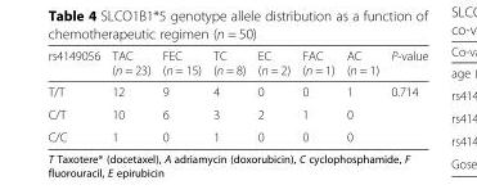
<table><thead><tr><td>rs4149056</td><td>TAC (n = 23)</td><td>FEC (n = 15)</td><td>TC (n = 8)</td><td>EC (n = 2)</td><td>FAC (n = 1)</td><td>AC (n = 1)</td><td>P-value</td></tr></thead><tbody><tr><td>T/T</td><td>12</td><td>9</td><td>4</td><td>0</td><td>0</td><td>1</td><td rowspan="3">0.714</td></tr><tr><td>C/T</td><td>10</td><td>6</td><td>3</td><td>2</td><td>1</td><td>0</td></tr><tr><td>C/C</td><td>1</td><td>0</td><td>1</td><td>0</td><td>0</td><td>0</td></tr></tbody></table>